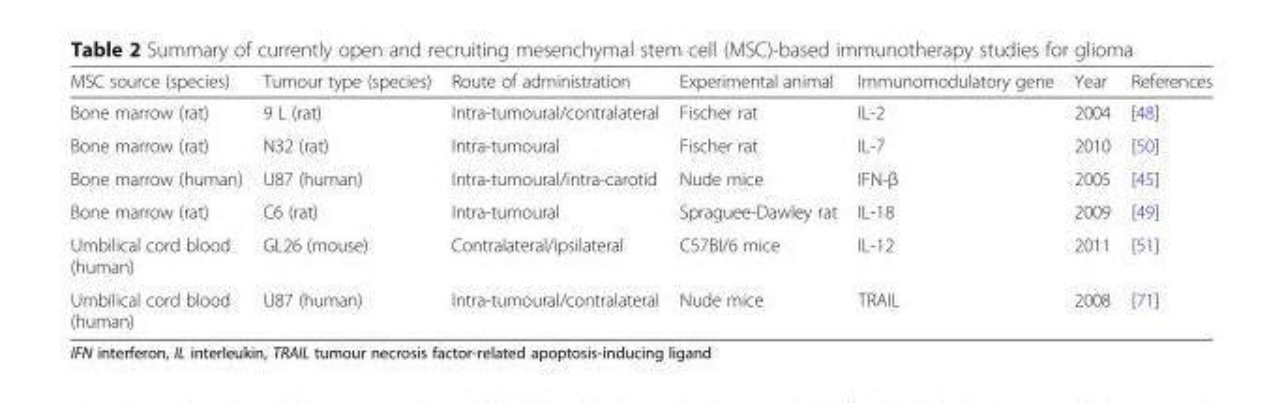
<table><thead><tr><td>MSC source (species)</td><td>Tumour type (species)</td><td>Route of administration</td><td>Experimental animal</td><td>Immunomodulatory gene</td><td>Year</td><td>References</td></tr></thead><tbody><tr><td>Bone marrow (rat)</td><td>9 L (rat)</td><td>Intra-tumoural/contralateral</td><td>Fischer rat</td><td>IL-2</td><td>2004</td><td>[48]</td></tr><tr><td>Bone marrow (rat)</td><td>N32 (rat)</td><td>Intra-tumoural</td><td>Fischer rat</td><td>IL-7</td><td>2010</td><td>[50]</td></tr><tr><td>Bone marrow (human)</td><td>U87 (human)</td><td>Intra-tumoural/intra-carotid</td><td>Nude mice</td><td>IFN-β</td><td>2005</td><td>[45]</td></tr><tr><td>Bone marrow (rat)</td><td>C6 (rat)</td><td>Intra-tumoural</td><td>Spraguee-Dawley rat</td><td>IL-18</td><td>2009</td><td>[49]</td></tr><tr><td>Umbilical cord blood (human)</td><td>GL26 (mouse)</td><td>Contralateral/ipsilateral</td><td>C57BI/6 mice</td><td>IL-12</td><td>2011</td><td>[51]</td></tr><tr><td>Umbilical cord blood (human)</td><td>U87 (human)</td><td>Intra-tumoural/contralateral</td><td>Nude mice</td><td>TRAIL</td><td>2008</td><td>[71]</td></tr></tbody></table>